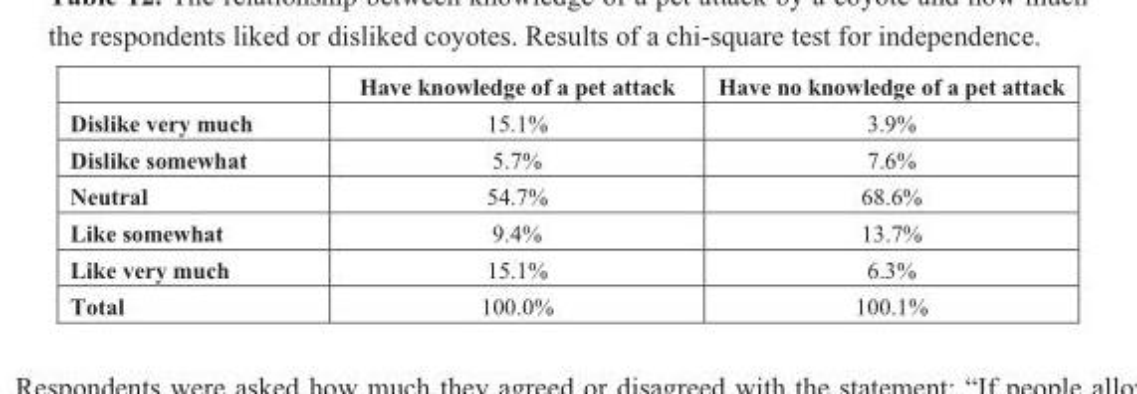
<table><thead><tr><td></td><td>Have knowledge of a pet attack</td><td>Have no knowledge of a pet attack</td></tr></thead><tbody><tr><td>Dislike very much</td><td>15.1%</td><td>3.9%</td></tr><tr><td>Dislike somewhat</td><td>5.7%</td><td>7.6%</td></tr><tr><td>Neutral</td><td>54.7%</td><td>68.6%</td></tr><tr><td>Like somewhat</td><td>9.4%</td><td>13.7%</td></tr><tr><td>Like very much</td><td>15.1%</td><td>6.3%</td></tr><tr><td>Total</td><td>100.0%</td><td>100.1%</td></tr></tbody></table>